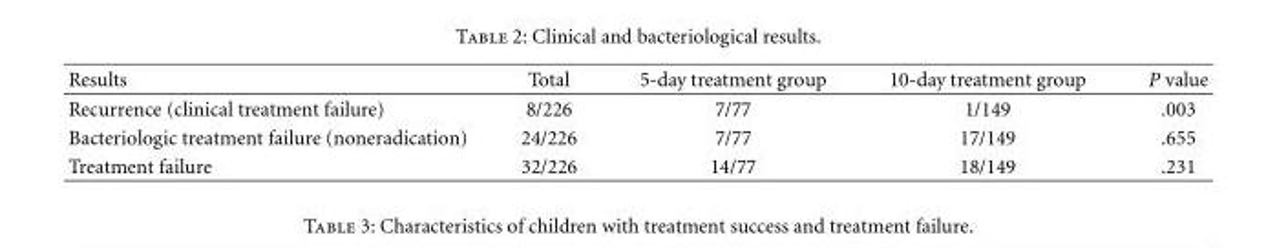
<table><thead><tr><td>Results</td><td>Total</td><td>5-day treatment group</td><td>10-day treatment group</td><td>P value</td></tr></thead><tbody><tr><td>Recurrence (clinical treatment failure)</td><td>8/226</td><td>7/77</td><td>1/149</td><td>.003</td></tr><tr><td>Bacteriologic treatment failure (noneradication)</td><td>24/226</td><td>7/77</td><td>17/149</td><td>.655</td></tr><tr><td>Treatment failure</td><td>32/226</td><td>14/77</td><td>18/149</td><td>.231</td></tr></tbody></table>